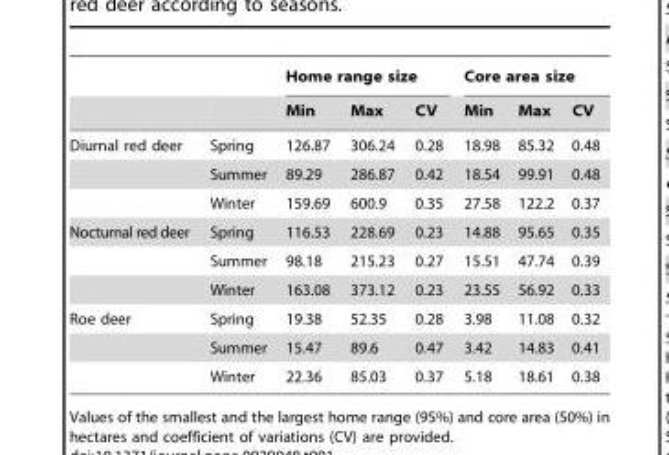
<table><thead><tr><td rowspan="2"></td><td rowspan="2"></td><td colspan="3">Home range size</td><td colspan="3">Core area size</td></tr><tr><td>Min</td><td>Max</td><td>CV</td><td>Min</td><td>Max</td><td>CV</td></tr></thead><tbody><tr><td rowspan="3">Diurnal red deer</td><td>Spring</td><td>126.87</td><td>306.24</td><td>0.28</td><td>18.98</td><td>85.32</td><td>0.48</td></tr><tr><td>Summer</td><td>89.29</td><td>286.87</td><td>0.42</td><td>18.54</td><td>99.91</td><td>0.48</td></tr><tr><td>Winter</td><td>159.69</td><td>600.9</td><td>0.35</td><td>27.58</td><td>122.2</td><td>0.37</td></tr><tr><td rowspan="3">Nocturnal red deer</td><td>Spring</td><td>116.53</td><td>228.69</td><td>0.23</td><td>14.88</td><td>95.65</td><td>0.35</td></tr><tr><td>Summer</td><td>98.18</td><td>215.23</td><td>0.27</td><td>15.51</td><td>47.74</td><td>0.39</td></tr><tr><td>Winter</td><td>163.08</td><td>373.12</td><td>0.23</td><td>23.55</td><td>56.92</td><td>0.33</td></tr><tr><td rowspan="3">Roe deer</td><td>Spring</td><td>19.38</td><td>52.35</td><td>0.28</td><td>3.98</td><td>11.08</td><td>0.32</td></tr><tr><td>Summer</td><td>15.47</td><td>89.6</td><td>0.47</td><td>3.42</td><td>14.83</td><td>0.41</td></tr><tr><td>Winter</td><td>22.36</td><td>85.03</td><td>0.37</td><td>5.18</td><td>18.61</td><td>0.38</td></tr></tbody></table>